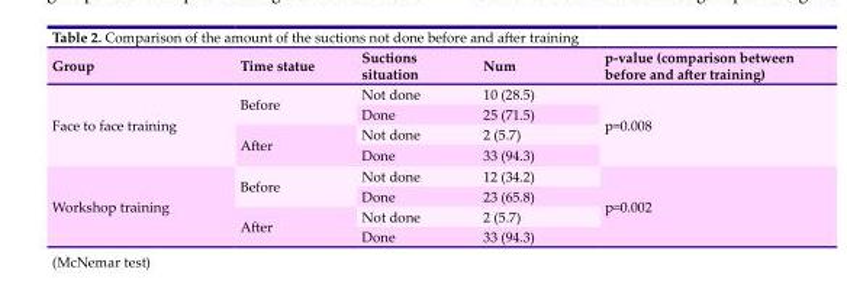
<table><thead><tr><td>Group</td><td>Time statue</td><td>Suctions situation</td><td>Num</td><td>p-value (comparison between before and after training)</td></tr></thead><tbody><tr><td rowspan="4">Face to face training</td><td rowspan="2">Before</td><td>Not done</td><td>10 (28.5)</td><td rowspan="4">p=0.008</td></tr><tr><td>Done</td><td>25 (71.5)</td></tr><tr><td rowspan="2">After</td><td>Not done</td><td>2 (5.7)</td></tr><tr><td>Done</td><td>33 (94.3)</td></tr><tr><td rowspan="4">Workshop training</td><td rowspan="2">Before</td><td>Not done</td><td>12 (34.2)</td><td rowspan="4">p=0.002</td></tr><tr><td>Done</td><td>23 (65.8)</td></tr><tr><td rowspan="2">After</td><td>Not done</td><td>2 (5.7)</td></tr><tr><td>Done</td><td>33 (94.3)</td></tr></tbody></table>